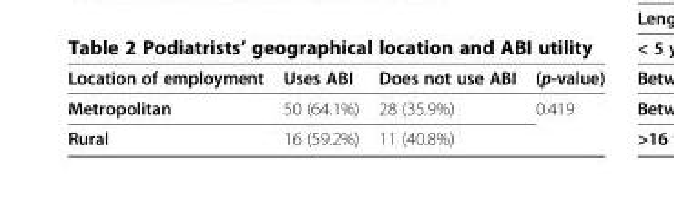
<table><thead><tr><td>Location of employment</td><td>Uses ABI</td><td>Does not use ABI</td><td>(p-value)</td></tr></thead><tbody><tr><td>Metropolitan</td><td>50 (64.1%)</td><td>28 (35.9%)</td><td>0.419</td></tr><tr><td>Rural</td><td>16 (59.2%)</td><td>11 (40.8%)</td><td></td></tr></tbody></table>